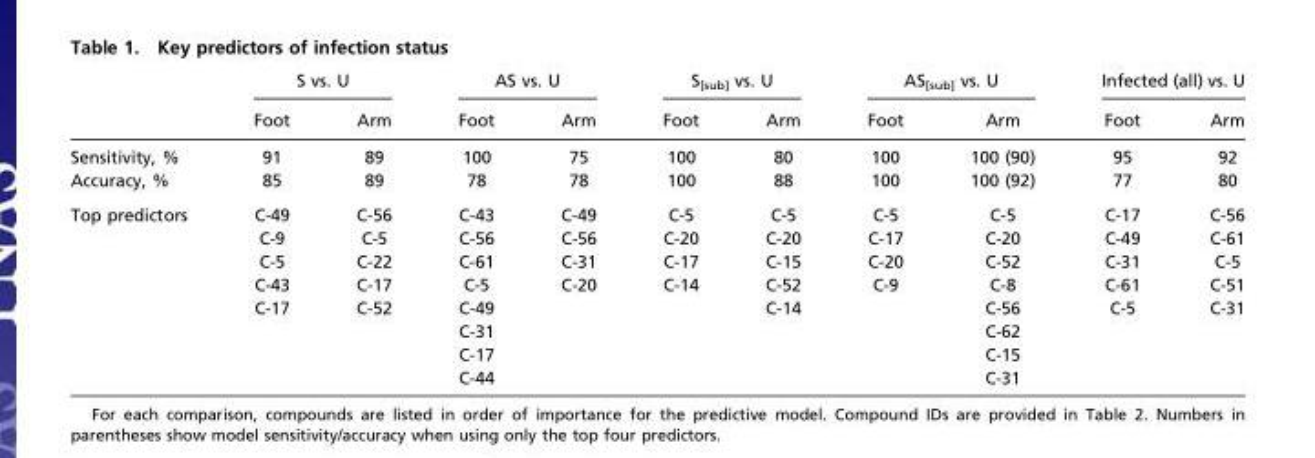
<table><thead><tr><td rowspan="2"></td><td colspan="2">S vs. U</td><td colspan="2">AS vs. U</td><td colspan="2">S<sub>[sub]</sub> vs. U</td><td colspan="2">AS<sub>[sub]</sub> vs. U</td><td colspan="2">Infected (all) vs. U</td></tr><tr><td>Foot</td><td>Arm</td><td>Foot</td><td>Arm</td><td>Foot</td><td>Arm</td><td>Foot</td><td>Arm</td><td>Foot</td><td>Arm</td></tr></thead><tbody><tr><td>Sensitivity, %</td><td>91</td><td>89</td><td>100</td><td>75</td><td>100</td><td>80</td><td>100</td><td>100 (90)</td><td>95</td><td>92</td></tr><tr><td>Accuracy, %</td><td>85</td><td>89</td><td>78</td><td>78</td><td>100</td><td>88</td><td>100</td><td>100 (92)</td><td>77</td><td>80</td></tr><tr><td rowspan="8">Top predictors</td><td>C-49</td><td>C-56</td><td>C-43</td><td>C-49</td><td>C-5</td><td>C-5</td><td>C-5</td><td>C-5</td><td>C-17</td><td>C-56</td></tr><tr><td>C-9</td><td>C-5</td><td>C-56</td><td>C-56</td><td>C-20</td><td>C-20</td><td>C-17</td><td>C-20</td><td>C-49</td><td>C-61</td></tr><tr><td>C-5</td><td>C-22</td><td>C-61</td><td>C-31</td><td>C-17</td><td>C-15</td><td>C-20</td><td>C-52</td><td>C-31</td><td>C-5</td></tr><tr><td>C-43</td><td>C-17</td><td>C-5</td><td>C-20</td><td>C-14</td><td>C-52</td><td>C-9</td><td>C-8</td><td>C-61</td><td>C-51</td></tr><tr><td>C-17</td><td>C-52</td><td>C-49</td><td></td><td></td><td>C-14</td><td></td><td>C-56</td><td>C-5</td><td>C-31</td></tr><tr><td></td><td></td><td>C-31</td><td></td><td></td><td></td><td></td><td>C-62</td><td></td><td></td></tr><tr><td></td><td></td><td>C-17</td><td></td><td></td><td></td><td></td><td>C-15</td><td></td><td></td></tr><tr><td></td><td></td><td>C-44</td><td></td><td></td><td></td><td></td><td>C-31</td><td></td><td></td></tr></tbody></table>